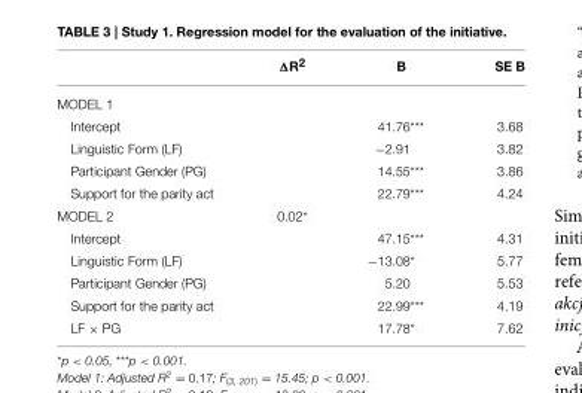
<table><thead><tr><td></td><td>ΔR<sup>2</sup></td><td>B</td><td>SE B</td></tr></thead><tbody><tr><td colspan="4">MODEL 1</td></tr><tr><td>Intercept</td><td></td><td>41.76***</td><td>3.68</td></tr><tr><td>Linguistic Form (LF)</td><td></td><td>−2.91</td><td>3.82</td></tr><tr><td>Participant Gender (PG)</td><td></td><td>14.55***</td><td>3.86</td></tr><tr><td>Support for the parity act</td><td></td><td>22.79***</td><td>4.24</td></tr><tr><td>MODEL 2</td><td>0.02*</td><td></td><td></td></tr><tr><td>Intercept</td><td></td><td>47.15***</td><td>4.31</td></tr><tr><td>Linguistic Form (LF)</td><td></td><td>−13.08*</td><td>5.77</td></tr><tr><td>Participant Gender (PG)</td><td></td><td>5.20</td><td>5.53</td></tr><tr><td>Support for the parity act</td><td></td><td>22.99***</td><td>4.19</td></tr><tr><td>LF × PG</td><td></td><td>17.78*</td><td>7.62</td></tr></tbody></table>